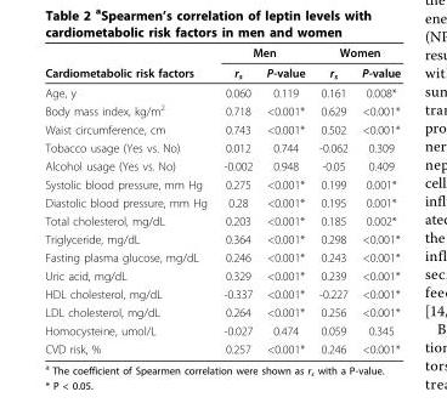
<table><thead><tr><td rowspan="2">Cardiometabolic risk factors</td><td colspan="2">Men</td><td colspan="2">Women</td></tr><tr><td>r<sub>s</sub></td><td>P-value</td><td>r<sub>s</sub></td><td>P-value</td></tr></thead><tbody><tr><td>Age, y</td><td>0.060</td><td>0.119</td><td>0.161</td><td>0.008*</td></tr><tr><td>Body mass index, kg/m<sup>2</sup></td><td>0.718</td><td>&lt;0.001*</td><td>0.629</td><td>&lt;0.001*</td></tr><tr><td>Waist circumference, cm</td><td>0.743</td><td>&lt;0.001*</td><td>0.502</td><td>&lt;0.001*</td></tr><tr><td>Tobacco usage (Yes vs. No)</td><td>0.012</td><td>0.744</td><td>-0.062</td><td>0.309</td></tr><tr><td>Alcohol usage (Yes vs. No)</td><td>-0.002</td><td>0.948</td><td>-0.05</td><td>0.409</td></tr><tr><td>Systolic blood pressure, mm Hg</td><td>0.275</td><td>&lt;0.001*</td><td>0.199</td><td>0.001*</td></tr><tr><td>Diastolic blood pressure, mm Hg</td><td>0.28</td><td>&lt;0.001*</td><td>0.195</td><td>0.001*</td></tr><tr><td>Total cholesterol, mg/dL</td><td>0.203</td><td>&lt;0.001*</td><td>0.185</td><td>0.002*</td></tr><tr><td>Triglyceride, mg/dL</td><td>0.364</td><td>&lt;0.001*</td><td>0.298</td><td>&lt;0.001*</td></tr><tr><td>Fasting plasma glucose, mg/dL</td><td>0.246</td><td>&lt;0.001*</td><td>0.243</td><td>&lt;0.001*</td></tr><tr><td>Uric acid, mg/dL</td><td>0.329</td><td>&lt;0.001*</td><td>0.239</td><td>&lt;0.001*</td></tr><tr><td>HDL cholesterol, mg/dL</td><td>-0.337</td><td>&lt;0.001*</td><td>-0.227</td><td>&lt;0.001*</td></tr><tr><td>LDL cholesterol, mg/dL</td><td>0.264</td><td>&lt;0.001*</td><td>0.256</td><td>&lt;0.001*</td></tr><tr><td>Homocysteine, umol/L</td><td>-0.027</td><td>0.474</td><td>0.059</td><td>0.345</td></tr><tr><td>CVD risk, %</td><td>0.257</td><td>&lt;0.001*</td><td>0.246</td><td>&lt;0.001*</td></tr></tbody></table>